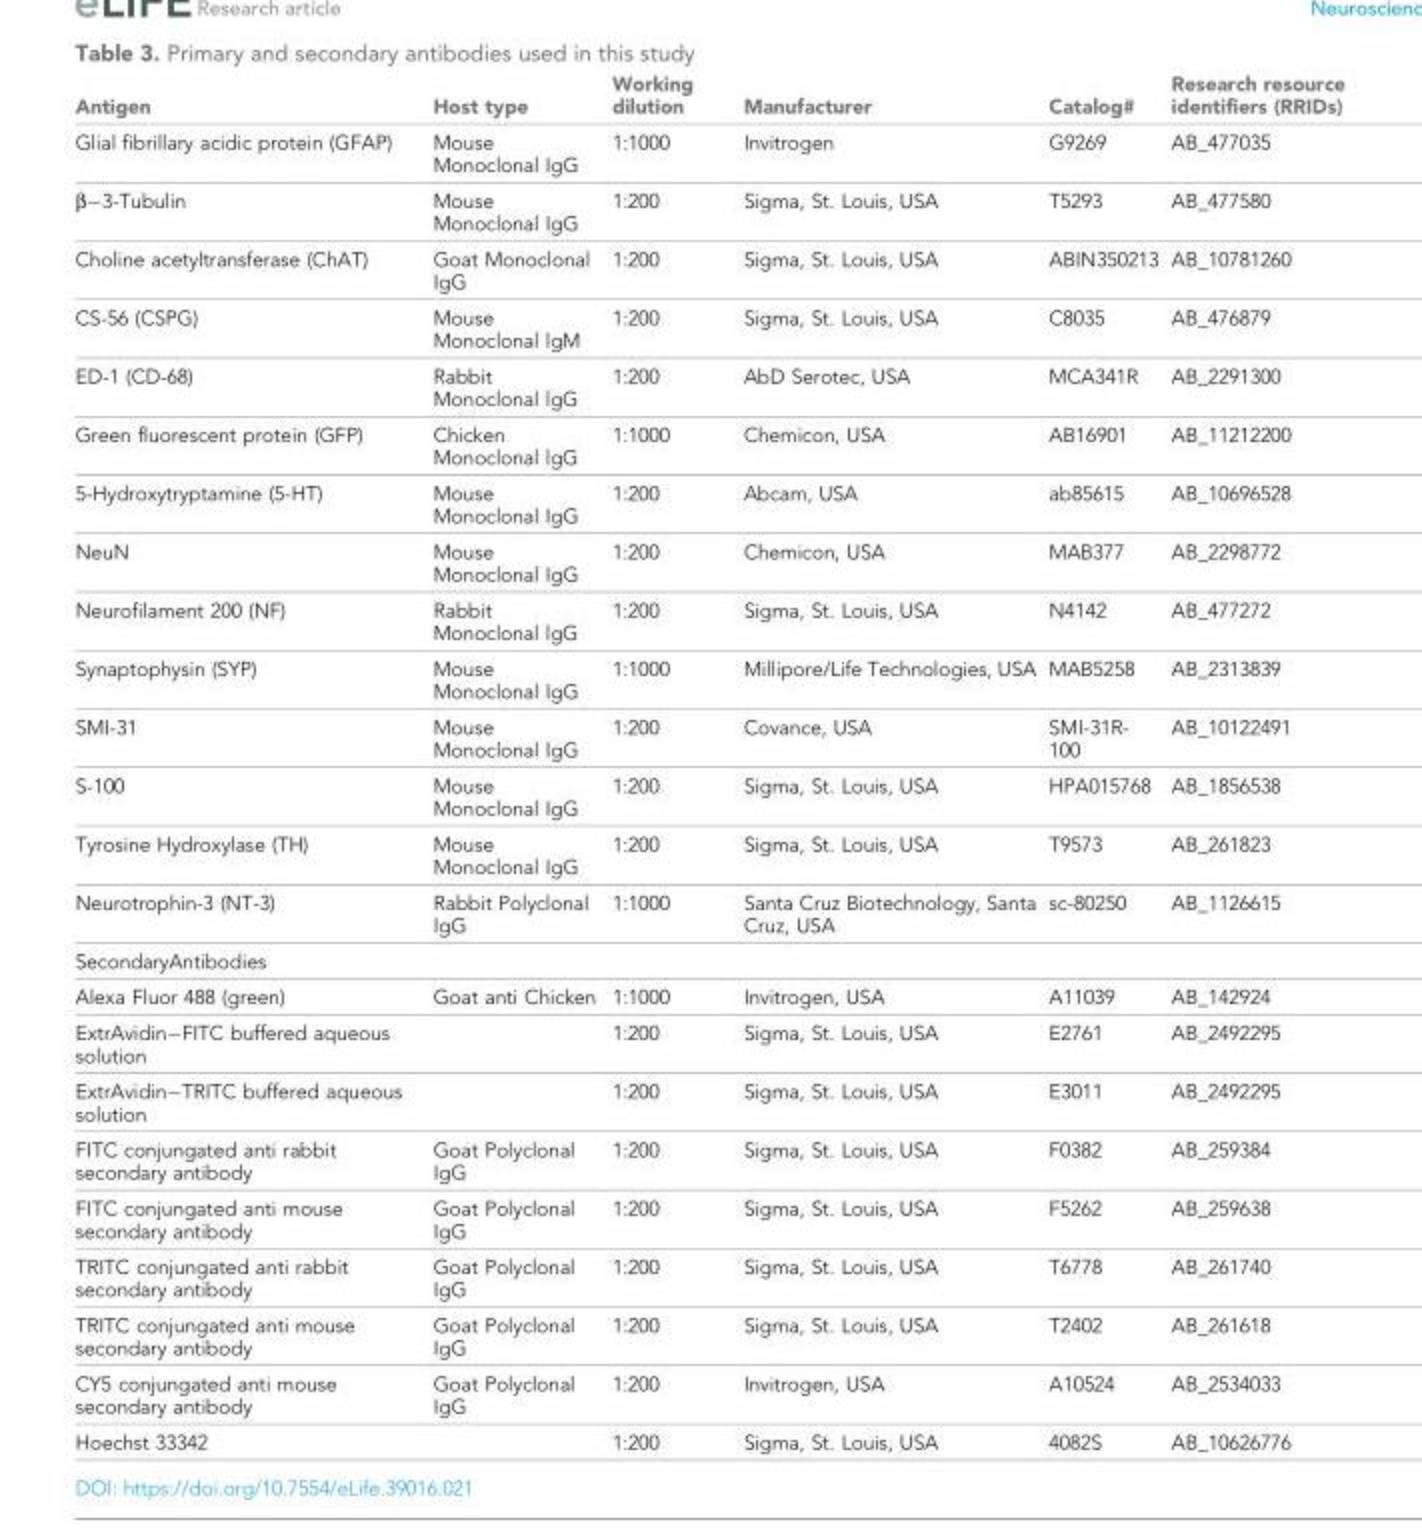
<table><thead><tr><td>Antigen</td><td>Host type</td><td>Working dilution</td><td>Manufacturer</td><td>Catalog#</td><td>Research resource identifiers (RRIDs)</td></tr></thead><tbody><tr><td>Glial fibrillary acidic protein (GFAP)</td><td>Mouse Monoclonal IgG</td><td>1:1000</td><td>Invitrogen</td><td>G9269</td><td>AB_477035</td></tr><tr><td>β−3-Tubulin</td><td>Mouse Monoclonal IgG</td><td>1:200</td><td>Sigma, St. Louis, USA</td><td>T5293</td><td>AB_477580</td></tr><tr><td>Choline acetyltransferase (ChAT)</td><td>Goat Monoclonal IgG</td><td>1:200</td><td>Sigma, St. Louis, USA</td><td>ABIN350213</td><td>AB_10781260</td></tr><tr><td>CS-56 (CSPG)</td><td>Mouse Monoclonal lgM</td><td>1:200</td><td>Sigma, St. Louis, USA</td><td>C8035</td><td>AB_476879</td></tr><tr><td>ED-1 (CD-68)</td><td>Rabbit Monoclonal lgG</td><td>1:200</td><td>AbD Serotec, USA</td><td>MCA341R</td><td>AB_2291300</td></tr><tr><td>Green fluorescent protein (GFP)</td><td>Chicken Monoclonal lgG</td><td>1:1000</td><td>Chemicon, USA</td><td>AB16901</td><td>AB_11212200</td></tr><tr><td>5-Hydroxytryptamine (5-HT)</td><td>Mouse Monoclonal IgG</td><td>1:200</td><td>Abcam, USA</td><td>ab85615</td><td>AB_10696528</td></tr><tr><td>NeuN</td><td>Mouse Monoclonal IgG</td><td>1:200</td><td>Chemicon, USA</td><td>MAB377</td><td>AB_2298772</td></tr><tr><td>Neurofilament 200 (NF)</td><td>Rabbit Monoclonal lgG</td><td>1:200</td><td>Sigma, St. Louis, USA</td><td>N4142</td><td>AB_477272</td></tr><tr><td>Synaptophysin (SYP)</td><td>Mouse Monoclonal IgG</td><td>1:1000</td><td>Millipore/Life Technologies, USA</td><td>MAB5258</td><td>AB_2313839</td></tr><tr><td>SMI-31</td><td>Mouse Monoclonal IgG</td><td>1:200</td><td>Covance, USA</td><td>SMI-31R- 100</td><td>AB_10122491</td></tr><tr><td>S-100</td><td>Mouse Monoclonal IgG</td><td>1:200</td><td>Sigma, St. Louis, USA</td><td>HPA015768</td><td>AB_1856538</td></tr><tr><td>Tyrosine Hydroxylase (TH)</td><td>Mouse Monoclonal IgG</td><td>1:200</td><td>Sigma, St. Louis, USA</td><td>T9573</td><td>AB_261823</td></tr><tr><td>Neurotrophin-3 (NT-3)</td><td>Rabbit Polyclonal IgG</td><td>1:1000</td><td>Santa Cruz Biotechnology, Santa Cruz, USA</td><td>sc-80250</td><td>AB_1126615</td></tr><tr><td colspan="6">SecondaryAntibodies</td></tr><tr><td>Alexa Fluor 488 (green)</td><td>Goat anti Chicken</td><td>1:1000</td><td>Invitrogen, USA</td><td>A11039</td><td>AB_142924</td></tr><tr><td>ExtrAvidin−FITC buffered aqueous solution</td><td></td><td>1:200</td><td>Sigma, St. Louis, USA</td><td>E2761</td><td>AB_2492295</td></tr><tr><td>ExtrAvidin−TRITC buffered aqueous solution</td><td></td><td>1:200</td><td>Sigma, St. Louis, USA</td><td>E3011</td><td>AB_2492295</td></tr><tr><td>FITC conjungated anti rabbit secondary antibody</td><td>Goat Polyclonal IgG</td><td>1:200</td><td>Sigma, St. Louis, USA</td><td>F0382</td><td>AB_259384</td></tr><tr><td>FITC conjungated anti mouse secondary antibody</td><td>Goat Polyclonal IgG</td><td>1:200</td><td>Sigma, St. Louis, USA</td><td>F5262</td><td>AB_259638</td></tr><tr><td>TRITC conjungated anti rabbit secondary antibody</td><td>Goat Polyclonal IgG</td><td>1:200</td><td>Sigma, St. Louis, USA</td><td>T6778</td><td>AB_261740</td></tr><tr><td>TRITC conjungated anti mouse secondary antibody</td><td>Goat Polyclonal IgG</td><td>1:200</td><td>Sigma, St. Louis, USA</td><td>T2402</td><td>AB_261618</td></tr><tr><td>CY5 conjungated anti mouse secondary antibody</td><td>Goat Polyclonal IgG</td><td>1:200</td><td>Invitrogen, USA</td><td>A10524</td><td>AB_2534033</td></tr><tr><td>Hoechst 33342</td><td></td><td>1:200</td><td>Sigma, St. Louis, USA</td><td>4082S</td><td>AB_10626776</td></tr></tbody></table>